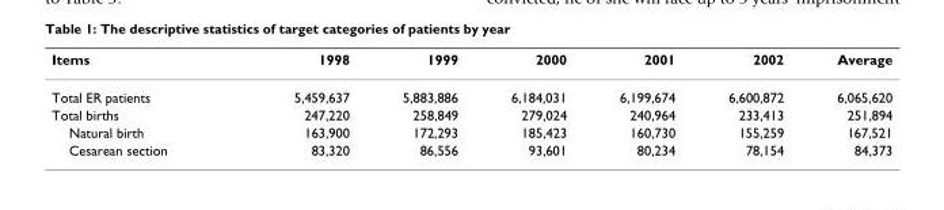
<table><thead><tr><td>Items</td><td>1998</td><td>1999</td><td>2000</td><td>2001</td><td>2002</td><td>Average</td></tr></thead><tbody><tr><td>Total ER patients</td><td>5,459,637</td><td>5,883,886</td><td>6,184,031</td><td>6,199,674</td><td>6,600,872</td><td>6,065,620</td></tr><tr><td>Total births</td><td>247,220</td><td>258,849</td><td>279,024</td><td>240,964</td><td>233,413</td><td>251,894</td></tr><tr><td>Natural birth</td><td>163,900</td><td>172,293</td><td>185,423</td><td>160,730</td><td>155,259</td><td>167,521</td></tr><tr><td>Cesarean section</td><td>83,320</td><td>86,556</td><td>93,601</td><td>80,234</td><td>78,154</td><td>84,373</td></tr></tbody></table>